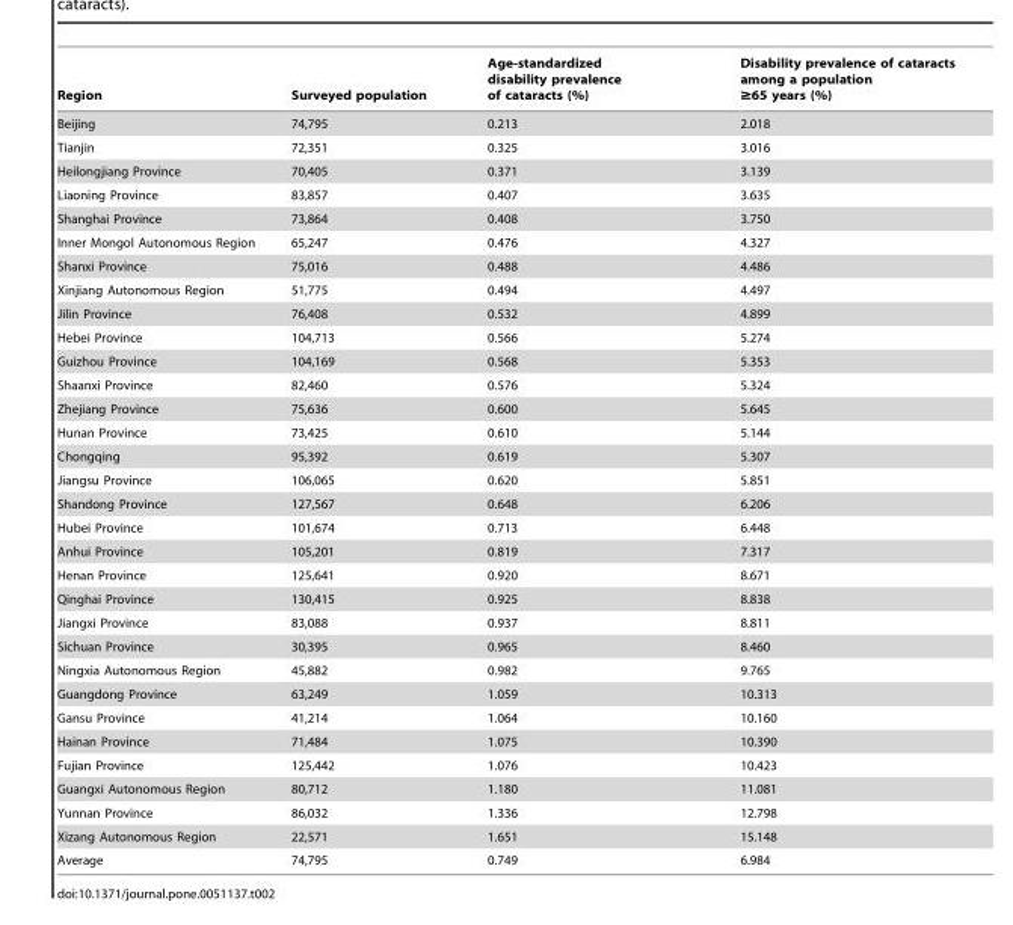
<table><thead><tr><td>Region</td><td>Surveyed population</td><td>Age-standardized disability prevalence of cataracts (%)</td><td>Disability prevalence of cataracts among a population ≥65 years (%)</td></tr></thead><tbody><tr><td>Beijing</td><td>74,795</td><td>0.213</td><td>2.018</td></tr><tr><td>Tianjin</td><td>72,351</td><td>0.325</td><td>3.016</td></tr><tr><td>Heilongjiang Province</td><td>70,405</td><td>0.371</td><td>3.139</td></tr><tr><td>Liaoning Province</td><td>83,857</td><td>0.407</td><td>3.635</td></tr><tr><td>Shanghai Province</td><td>73,864</td><td>0.408</td><td>3.750</td></tr><tr><td>Inner Mongol Autonomous Region</td><td>65,247</td><td>0.476</td><td>4.327</td></tr><tr><td>Shanxi Province</td><td>75,016</td><td>0.488</td><td>4.486</td></tr><tr><td>Xinjiang Autonomous Region</td><td>51,775</td><td>0.494</td><td>4.497</td></tr><tr><td>Jilin Province</td><td>76,408</td><td>0.532</td><td>4.899</td></tr><tr><td>Hebei Province</td><td>104,713</td><td>0.566</td><td>5.274</td></tr><tr><td>Guizhou Province</td><td>104,169</td><td>0.568</td><td>5.353</td></tr><tr><td>Shaanxi Province</td><td>82,460</td><td>0.576</td><td>5.324</td></tr><tr><td>Zhejiang Province</td><td>75,636</td><td>0.600</td><td>5.645</td></tr><tr><td>Hunan Province</td><td>73,425</td><td>0.610</td><td>5.144</td></tr><tr><td>Chongqing</td><td>95,392</td><td>0.619</td><td>5.307</td></tr><tr><td>Jiangsu Province</td><td>106,065</td><td>0.620</td><td>5.851</td></tr><tr><td>Shandong Province</td><td>127,567</td><td>0.648</td><td>6.206</td></tr><tr><td>Hubei Province</td><td>101,674</td><td>0.713</td><td>6.448</td></tr><tr><td>Anhui Province</td><td>105,201</td><td>0.819</td><td>7.317</td></tr><tr><td>Henan Province</td><td>125,641</td><td>0.920</td><td>8.671</td></tr><tr><td>Qinghai Province</td><td>130,415</td><td>0.925</td><td>8.838</td></tr><tr><td>Jiangxi Province</td><td>83,088</td><td>0.937</td><td>8.811</td></tr><tr><td>Sichuan Province</td><td>30,395</td><td>0.965</td><td>8.460</td></tr><tr><td>Ningxia Autonomous Region</td><td>45,882</td><td>0.982</td><td>9.765</td></tr><tr><td>Guangdong Province</td><td>63,249</td><td>1.059</td><td>10.313</td></tr><tr><td>Gansu Province</td><td>41,214</td><td>1.064</td><td>10.160</td></tr><tr><td>Hainan Province</td><td>71,484</td><td>1.075</td><td>10.390</td></tr><tr><td>Fujian Province</td><td>125,442</td><td>1.076</td><td>10.423</td></tr><tr><td>Guangxi Autonomous Region</td><td>80,712</td><td>1.180</td><td>11.081</td></tr><tr><td>Yunnan Province</td><td>86,032</td><td>1.336</td><td>12.798</td></tr><tr><td>Xizang Autonomous Region</td><td>22,571</td><td>1.651</td><td>15.148</td></tr><tr><td>Average</td><td>74,795</td><td>0.749</td><td>6.984</td></tr></tbody></table>